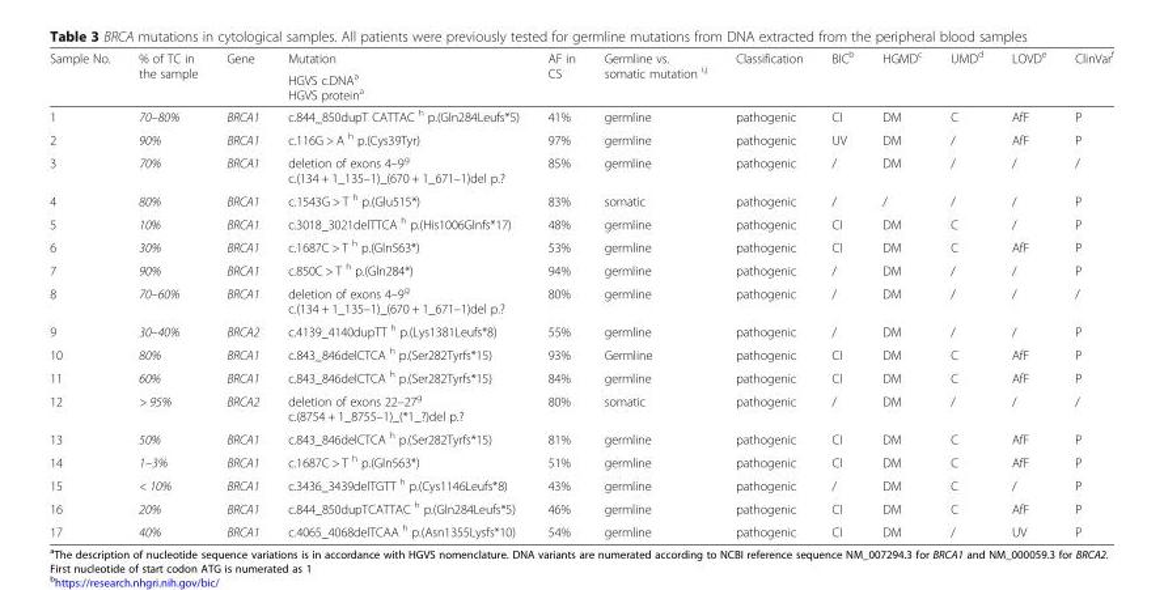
<table><thead><tr><td rowspan="2">Sample No.</td><td rowspan="2">% of TC in the sample</td><td rowspan="2">Gene</td><td rowspan="2">Mutation HGVS c.DNA<sup>a</sup> HGVS protein<sup>a</sup></td><td rowspan="2">AF in CS</td><td rowspan="2">Germline vs. somatic mutation <sup>i,j</sup></td><td rowspan="2">Classification</td><td rowspan="2">BIC<sup>b</sup></td><td rowspan="2">HGMD<sup>c</sup></td><td rowspan="2">UMD<sup>d</sup></td><td rowspan="2">LOVD<sup>e</sup></td><td rowspan="2">ClinVar<sup>f</sup></td></tr><tr></tr></thead><tbody><tr><td>1</td><td>70–80%</td><td>BRCA1</td><td>c.844_850dupT CATTAC <sup>h</sup> p.(Gln284Leufs*5)</td><td>41%</td><td>germline</td><td>pathogenic</td><td>CI</td><td>DM</td><td>C</td><td>AfF</td><td>P</td></tr><tr><td>2</td><td>90%</td><td>BRCA1</td><td>c.116G &gt; A <sup>h</sup> p.(Cys39Tyr)</td><td>97%</td><td>germline</td><td>pathogenic</td><td>UV</td><td>DM</td><td>/</td><td>AfF</td><td>P</td></tr><tr><td>3</td><td>70%</td><td>BRCA1</td><td>deletion of exons 4–9<sup>g</sup> c.(134 + 1_135–1)_(670 + 1_671–1)del p.?</td><td>85%</td><td>germline</td><td>pathogenic</td><td>/</td><td>DM</td><td>/</td><td>/</td><td>/</td></tr><tr><td>4</td><td>80%</td><td>BRCA1</td><td>c.1543G &gt; T <sup>h</sup> p.(Glu515*)</td><td>83%</td><td>somatic</td><td>pathogenic</td><td>/</td><td>/</td><td>/</td><td>/</td><td>P</td></tr><tr><td>5</td><td>10%</td><td>BRCA1</td><td>c.3018_3021delTTCA <sup>h</sup> p.(His1006Glnfs*17)</td><td>48%</td><td>germline</td><td>pathogenic</td><td>CI</td><td>DM</td><td>C</td><td>/</td><td>P</td></tr><tr><td>6</td><td>30%</td><td>BRCA1</td><td>c.1687C &gt; T <sup>h</sup> p.(Gln563*)</td><td>53%</td><td>germline</td><td>pathogenic</td><td>CI</td><td>DM</td><td>C</td><td>AfF</td><td>P</td></tr><tr><td>7</td><td>90%</td><td>BRCA1</td><td>c.850C &gt; T <sup>h</sup> p.(Gln284*)</td><td>94%</td><td>germline</td><td>pathogenic</td><td>/</td><td>DM</td><td>/</td><td>/</td><td>P</td></tr><tr><td>8</td><td>70–60%</td><td>BRCA1</td><td>deletion of exons 4–9<sup>g</sup> c.(134 + 1_135–1)_(670 + 1_671–1)del p.?</td><td>80%</td><td>germline</td><td>pathogenic</td><td>/</td><td>DM</td><td>/</td><td>/</td><td>/</td></tr><tr><td>9</td><td>30–40%</td><td>BRCA2</td><td>c.4139_4140dupTT <sup>h</sup> p.(Lys1381Leufs*8)</td><td>55%</td><td>germline</td><td>pathogenic</td><td>/</td><td>DM</td><td>/</td><td>/</td><td>P</td></tr><tr><td>10</td><td>80%</td><td>BRCA1</td><td>c.843_846delCTCA <sup>h</sup> p.(Ser282Tyrfs*15)</td><td>93%</td><td>Germline</td><td>pathogenic</td><td>CI</td><td>DM</td><td>C</td><td>AfF</td><td>P</td></tr><tr><td>11</td><td>60%</td><td>BRCA1</td><td>c.843_846delCTCA <sup>h</sup> p.(Ser282Tyrfs*15)</td><td>84%</td><td>germline</td><td>pathogenic</td><td>CI</td><td>DM</td><td>C</td><td>AfF</td><td>P</td></tr><tr><td>12</td><td>&gt; 95%</td><td>BRCA2</td><td>deletion of exons 22–27<sup>g</sup> c.(8754 + 1_8755–1)_(*1_?)del p.?</td><td>80%</td><td>somatic</td><td>pathogenic</td><td>/</td><td>DM</td><td>/</td><td>/</td><td>/</td></tr><tr><td>13</td><td>50%</td><td>BRCA1</td><td>c.843_846delCTCA <sup>h</sup> p.(Ser282Tyrfs*15)</td><td>81%</td><td>germline</td><td>pathogenic</td><td>CI</td><td>DM</td><td>C</td><td>AfF</td><td>P</td></tr><tr><td>14</td><td>1–3%</td><td>BRCA1</td><td>c.1687C &gt; T <sup>h</sup> p.(Gln563*)</td><td>51%</td><td>germline</td><td>pathogenic</td><td>CI</td><td>DM</td><td>C</td><td>AfF</td><td>P</td></tr><tr><td>15</td><td>&lt; 10%</td><td>BRCA1</td><td>c.3436_3439delTGTT <sup>h</sup> p.(Cys1146Leufs*8)</td><td>43%</td><td>germline</td><td>pathogenic</td><td>/</td><td>DM</td><td>C</td><td>/</td><td>P</td></tr><tr><td>16</td><td>20%</td><td>BRCA1</td><td>c.844_850dupTCATTAC <sup>h</sup> p.(Gln284Leufs*5)</td><td>46%</td><td>germline</td><td>pathogenic</td><td>CI</td><td>DM</td><td>C</td><td>AfF</td><td>P</td></tr><tr><td>17</td><td>40%</td><td>BRCA1</td><td>c.4065_4068delTCAA <sup>h</sup> p.(Asn1355Lysfs*10)</td><td>54%</td><td>germline</td><td>pathogenic</td><td>CI</td><td>DM</td><td>/</td><td>UV</td><td>P</td></tr></tbody></table>